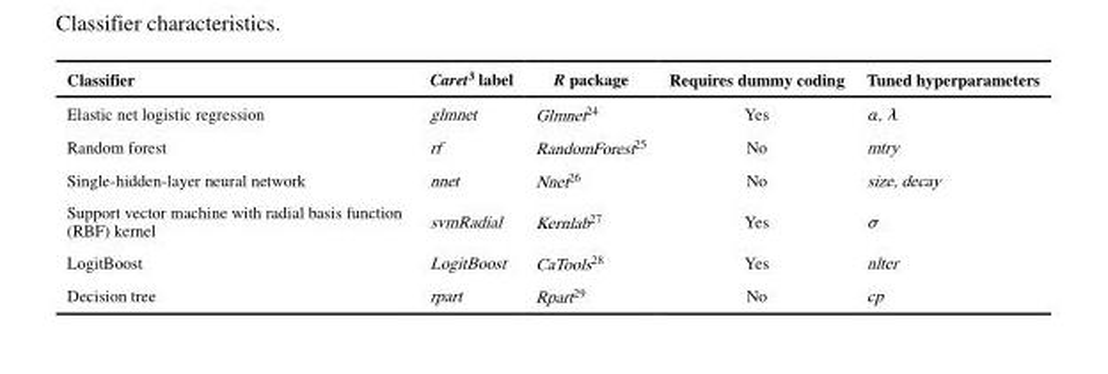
<table><thead><tr><td>Classifier</td><td>Caret3 label</td><td>R package</td><td>Requires dummy coding</td><td>Tuned hyperparameters</td></tr></thead><tbody><tr><td>Elastic net logistic regression</td><td>glmnet</td><td>Glmnet24</td><td>Yes</td><td>α, λ</td></tr><tr><td>Random forest</td><td>rf</td><td>RandomForest25</td><td>No</td><td>mtry</td></tr><tr><td>Single-hidden-layer neural network</td><td>nnet</td><td>Nnet26</td><td>No</td><td>size, decay</td></tr><tr><td>Support vector machine with radial basis function (RBF) kernel</td><td>svmRadial</td><td>Kernlab27</td><td>Yes</td><td>σ</td></tr><tr><td>LogitBoost</td><td>LogitBoost</td><td>CaTools28</td><td>Yes</td><td>nlter</td></tr><tr><td>Decision tree</td><td>rpart</td><td>Rpart29</td><td>No</td><td>cp</td></tr></tbody></table>